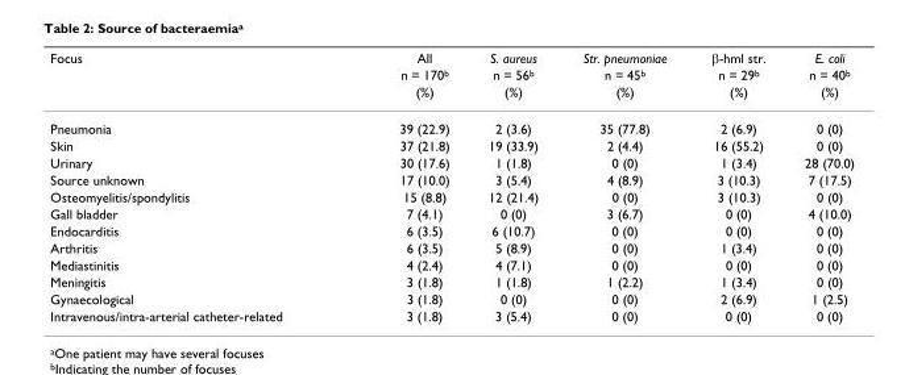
<table><thead><tr><td rowspan="3">Focus</td><td rowspan="3">All n = 170<sup>b</sup> (%)</td><td rowspan="3">S. aureus n = 56<sup>b</sup> (%)</td><td rowspan="3">Str. pneumoniae n = 45<sup>b</sup> (%)</td><td rowspan="3">β-hml str. n = 29<sup>b</sup> (%)</td><td rowspan="3">E. coli n = 40<sup>b</sup> (%)</td></tr><tr></tr><tr></tr></thead><tbody><tr><td>Pneumonia</td><td>39 (22.9)</td><td>2 (3.6)</td><td>35 (77.8)</td><td>2 (6.9)</td><td>0 (0)</td></tr><tr><td>Skin</td><td>37 (21.8)</td><td>19 (33.9)</td><td>2 (4.4)</td><td>16 (55.2)</td><td>0 (0)</td></tr><tr><td>Urinary</td><td>30 (17.6)</td><td>1 (1.8)</td><td>0 (0)</td><td>1 (3.4)</td><td>28 (70.0)</td></tr><tr><td>Source unknown</td><td>17 (10.0)</td><td>3 (5.4)</td><td>4 (8.9)</td><td>3 (10.3)</td><td>7 (17.5)</td></tr><tr><td>Osteomyelitis/spondylitis</td><td>15 (8.8)</td><td>12 (21.4)</td><td>0 (0)</td><td>3 (10.3)</td><td>0 (0)</td></tr><tr><td>Gall bladder</td><td>7 (4.1)</td><td>0 (0)</td><td>3 (6.7)</td><td>0 (0)</td><td>4 (10.0)</td></tr><tr><td>Endocarditis</td><td>6 (3.5)</td><td>6 (10.7)</td><td>0 (0)</td><td>0 (0)</td><td>0 (0)</td></tr><tr><td>Arthritis</td><td>6 (3.5)</td><td>5 (8.9)</td><td>0 (0)</td><td>1 (3.4)</td><td>0 (0)</td></tr><tr><td>Mediastinitis</td><td>4 (2.4)</td><td>4 (7.1)</td><td>0 (0)</td><td>0 (0)</td><td>0 (0)</td></tr><tr><td>Meningitis</td><td>3 (1.8)</td><td>1 (1.8)</td><td>1 (2.2)</td><td>1 (3.4)</td><td>0 (0)</td></tr><tr><td>Gynaecological</td><td>3 (1.8)</td><td>0 (0)</td><td>0 (0)</td><td>2 (6.9)</td><td>1 (2.5)</td></tr><tr><td>Intravenous/intra-arterial catheter-related</td><td>3 (1.8)</td><td>3 (5.4)</td><td>0 (0)</td><td>0 (0)</td><td>0 (0)</td></tr></tbody></table>